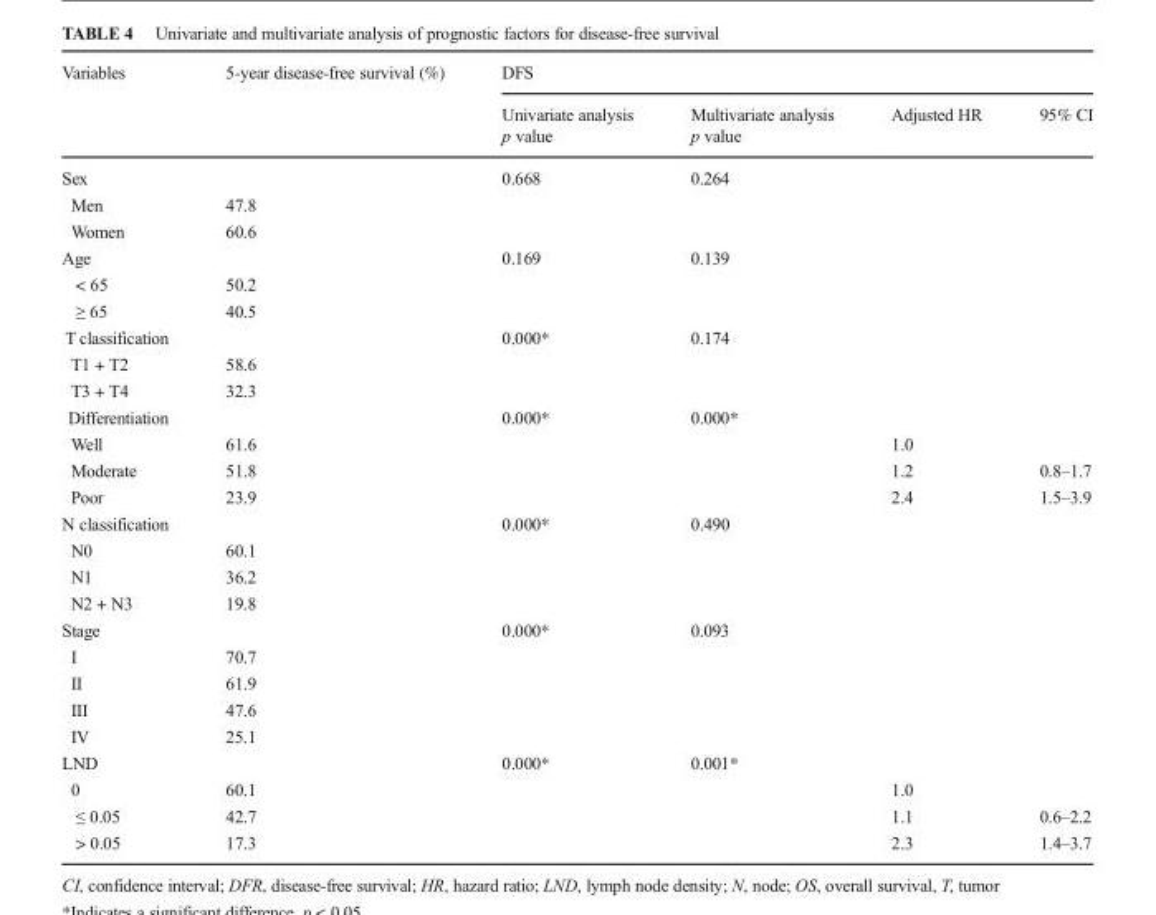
<table><thead><tr><td rowspan="2">Variables</td><td rowspan="2">5-year disease-free survival (%)</td><td colspan="4">DFS</td></tr><tr><td>Univariate analysis p value</td><td>Multivariate analysis p value</td><td>Adjusted HR</td><td>95% CI</td></tr></thead><tbody><tr><td>Sex</td><td></td><td>0.668</td><td>0.264</td><td></td><td></td></tr><tr><td>Men</td><td>47.8</td><td></td><td></td><td></td><td></td></tr><tr><td>Women</td><td>60.6</td><td></td><td></td><td></td><td></td></tr><tr><td>Age</td><td></td><td>0.169</td><td>0.139</td><td></td><td></td></tr><tr><td>&lt; 65</td><td>50.2</td><td></td><td></td><td></td><td></td></tr><tr><td>≥ 65</td><td>40.5</td><td></td><td></td><td></td><td></td></tr><tr><td>T classification</td><td></td><td>0.000*</td><td>0.174</td><td></td><td></td></tr><tr><td>T1 + T2</td><td>58.6</td><td></td><td></td><td></td><td></td></tr><tr><td>T3 + T4</td><td>32.3</td><td></td><td></td><td></td><td></td></tr><tr><td>Differentiation</td><td></td><td>0.000*</td><td>0.000*</td><td></td><td></td></tr><tr><td>Well</td><td>61.6</td><td></td><td></td><td>1.0</td><td></td></tr><tr><td>Moderate</td><td>51.8</td><td></td><td></td><td>1.2</td><td>0.8–1.7</td></tr><tr><td>Poor</td><td>23.9</td><td></td><td></td><td>2.4</td><td>1.5–3.9</td></tr><tr><td>N classification</td><td></td><td>0.000*</td><td>0.490</td><td></td><td></td></tr><tr><td>N0</td><td>60.1</td><td></td><td></td><td></td><td></td></tr><tr><td>N1</td><td>36.2</td><td></td><td></td><td></td><td></td></tr><tr><td>N2 + N3</td><td>19.8</td><td></td><td></td><td></td><td></td></tr><tr><td>Stage</td><td></td><td>0.000*</td><td>0.093</td><td></td><td></td></tr><tr><td>I</td><td>70.7</td><td></td><td></td><td></td><td></td></tr><tr><td>II</td><td>61.9</td><td></td><td></td><td></td><td></td></tr><tr><td>III</td><td>47.6</td><td></td><td></td><td></td><td></td></tr><tr><td>IV</td><td>25.1</td><td></td><td></td><td></td><td></td></tr><tr><td>LND</td><td></td><td>0.000*</td><td>0.001*</td><td></td><td></td></tr><tr><td>0</td><td>60.1</td><td></td><td></td><td>1.0</td><td></td></tr><tr><td>≤ 0.05</td><td>42.7</td><td></td><td></td><td>1.1</td><td>0.6–2.2</td></tr><tr><td>&gt; 0.05</td><td>17.3</td><td></td><td></td><td>2.3</td><td>1.4–3.7</td></tr></tbody></table>